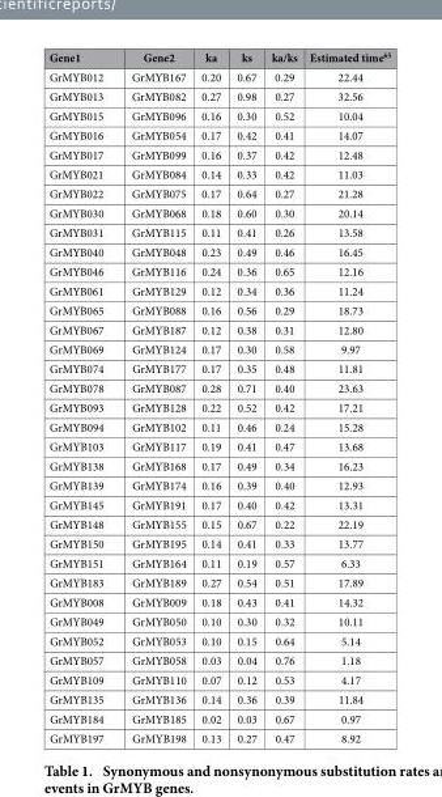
<table><thead><tr><td>Gene1</td><td>Gene2</td><td>ka</td><td>ks</td><td>ka/ks</td><td>Estimated time<sup>65</sup></td></tr></thead><tbody><tr><td>GrMYB012</td><td>GrMYB167</td><td>0.20</td><td>0.67</td><td>0.29</td><td>22.44</td></tr><tr><td>GrMYB013</td><td>GrMYB082</td><td>0.27</td><td>0.98</td><td>0.27</td><td>32.56</td></tr><tr><td>GrMYB015</td><td>GrMYB096</td><td>0.16</td><td>0.30</td><td>0.52</td><td>10.04</td></tr><tr><td>GrMYB016</td><td>GrMYB054</td><td>0.17</td><td>0.42</td><td>0.41</td><td>14.07</td></tr><tr><td>GrMYB017</td><td>GrMYB099</td><td>0.16</td><td>0.37</td><td>0.42</td><td>12.48</td></tr><tr><td>GrMYB021</td><td>GrMYB084</td><td>0.14</td><td>0.33</td><td>0.42</td><td>11.03</td></tr><tr><td>GrMYB022</td><td>GrMYB075</td><td>0.17</td><td>0.64</td><td>0.27</td><td>21.28</td></tr><tr><td>GrMYB030</td><td>GrMYB068</td><td>0.18</td><td>0.60</td><td>0.30</td><td>20.14</td></tr><tr><td>GrMYB031</td><td>GrMYB115</td><td>0.11</td><td>0.41</td><td>0.26</td><td>13.58</td></tr><tr><td>GrMYB040</td><td>GrMYB048</td><td>0.23</td><td>0.49</td><td>0.46</td><td>16.45</td></tr><tr><td>GrMYB046</td><td>GrMYB116</td><td>0.24</td><td>0.36</td><td>0.65</td><td>12.16</td></tr><tr><td>GrMYB061</td><td>GrMYB129</td><td>0.12</td><td>0.34</td><td>0.36</td><td>11.24</td></tr><tr><td>GrMYB065</td><td>GrMYB088</td><td>0.16</td><td>0.56</td><td>0.29</td><td>18.73</td></tr><tr><td>GrMYB067</td><td>GrMYB187</td><td>0.12</td><td>0.38</td><td>0.31</td><td>12.80</td></tr><tr><td>GrMYB069</td><td>GrMYB124</td><td>0.17</td><td>0.30</td><td>0.58</td><td>9.97</td></tr><tr><td>GrMYB074</td><td>GrMYB177</td><td>0.17</td><td>0.35</td><td>0.48</td><td>11.81</td></tr><tr><td>GrMYB078</td><td>GrMYB087</td><td>0.28</td><td>0.71</td><td>0.40</td><td>23.63</td></tr><tr><td>GrMYB093</td><td>GrMYB128</td><td>0.22</td><td>0.52</td><td>0.42</td><td>17.21</td></tr><tr><td>GrMYB094</td><td>GrMYB102</td><td>0.11</td><td>0.46</td><td>0.24</td><td>15.28</td></tr><tr><td>GrMYB103</td><td>GrMYB117</td><td>0.19</td><td>0.41</td><td>0.47</td><td>13.68</td></tr><tr><td>GrMYB138</td><td>GrMYB168</td><td>0.17</td><td>0.49</td><td>0.34</td><td>16.23</td></tr><tr><td>GrMYB139</td><td>GrMYB174</td><td>0.16</td><td>0.39</td><td>0.40</td><td>12.93</td></tr><tr><td>GrMYB145</td><td>GrMYB191</td><td>0.17</td><td>0.40</td><td>0.42</td><td>13.31</td></tr><tr><td>GrMYB148</td><td>GrMYB155</td><td>0.15</td><td>0.67</td><td>0.22</td><td>22.19</td></tr><tr><td>GrMYB150</td><td>GrMYB195</td><td>0.14</td><td>0.41</td><td>0.33</td><td>13.77</td></tr><tr><td>GrMYB151</td><td>GrMYB164</td><td>0.11</td><td>0.19</td><td>0.57</td><td>6.33</td></tr><tr><td>GrMYB183</td><td>GrMYB189</td><td>0.27</td><td>0.54</td><td>0.51</td><td>17.89</td></tr><tr><td>GrMYB008</td><td>GrMYB009</td><td>0.18</td><td>0.43</td><td>0.41</td><td>14.32</td></tr><tr><td>GrMYB049</td><td>GrMYB050</td><td>0.10</td><td>0.30</td><td>0.32</td><td>10.11</td></tr><tr><td>GrMYB052</td><td>GrMYB053</td><td>0.10</td><td>0.15</td><td>0.64</td><td>5.14</td></tr><tr><td>GrMYB057</td><td>GrMYB058</td><td>0.03</td><td>0.04</td><td>0.76</td><td>1.18</td></tr><tr><td>GrMYB109</td><td>GrMYB110</td><td>0.07</td><td>0.12</td><td>0.53</td><td>4.17</td></tr><tr><td>GrMYB135</td><td>GrMYB136</td><td>0.14</td><td>0.36</td><td>0.39</td><td>11.84</td></tr><tr><td>GrMYB184</td><td>GrMYB185</td><td>0.02</td><td>0.03</td><td>0.67</td><td>0.97</td></tr><tr><td>GrMYB197</td><td>GrMYB198</td><td>0.13</td><td>0.27</td><td>0.47</td><td>8.92</td></tr></tbody></table>